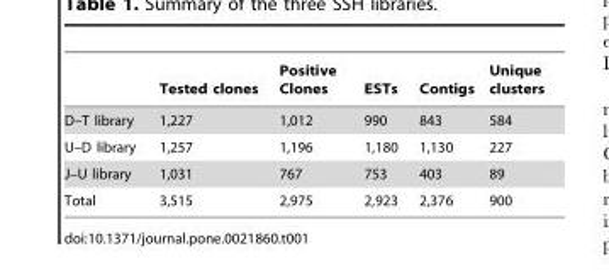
<table><thead><tr><td></td><td>Tested clones</td><td>Positive Clones</td><td>ESTs</td><td>Contigs</td><td>Unique clusters</td></tr></thead><tbody><tr><td>D–T library</td><td>1,227</td><td>1,012</td><td>990</td><td>843</td><td>584</td></tr><tr><td>U–D library</td><td>1,257</td><td>1,196</td><td>1,180</td><td>1,130</td><td>227</td></tr><tr><td>J–U library</td><td>1,031</td><td>767</td><td>753</td><td>403</td><td>89</td></tr><tr><td>Total</td><td>3,515</td><td>2,975</td><td>2,923</td><td>2,376</td><td>900</td></tr></tbody></table>